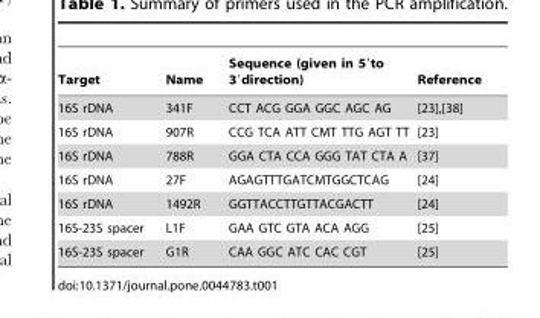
<table><thead><tr><td>Target</td><td>Name</td><td>Sequence (given in 5′to 3′direction)</td><td>Reference</td></tr></thead><tbody><tr><td>16S rDNA</td><td>341F</td><td>CCT ACG GGA GGC AGC AG</td><td>[23],[38]</td></tr><tr><td>16S rDNA</td><td>907R</td><td>CCG TCA ATT CMT TTG AGT TT</td><td>[23]</td></tr><tr><td>16S rDNA</td><td>788R</td><td>GGA CTA CCA GGG TAT CTA A</td><td>[37]</td></tr><tr><td>16S rDNA</td><td>27F</td><td>AGAGTTTGATCMTGGCTCAG</td><td>[24]</td></tr><tr><td>16S rDNA</td><td>1492R</td><td>GGTTACCTTGTTACGACTT</td><td>[24]</td></tr><tr><td>16S-23S spacer</td><td>L1F</td><td>GAA GTC GTA ACA AGG</td><td>[25]</td></tr><tr><td>16S-23S spacer</td><td>G1R</td><td>CAA GGC ATC CAC CGT</td><td>[25]</td></tr></tbody></table>